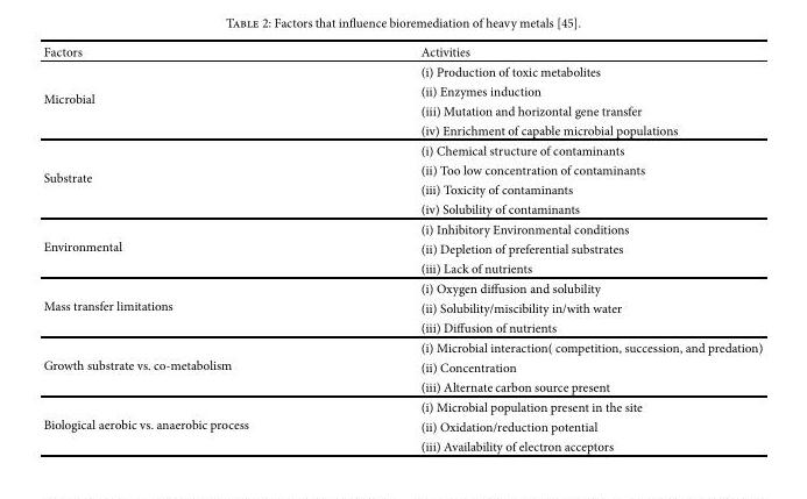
<table><thead><tr><td>Factors</td><td>Activities</td></tr></thead><tbody><tr><td rowspan="4">Microbial</td><td>(i) Production of toxic metabolites</td></tr><tr><td>(ii) Enzymes induction</td></tr><tr><td>(iii) Mutation and horizontal gene transfer</td></tr><tr><td>(iv) Enrichment of capable microbial populations</td></tr><tr><td rowspan="4">Substrate</td><td>(i) Chemical structure of contaminants</td></tr><tr><td>(ii) Too low concentration of contaminants</td></tr><tr><td>(iii) Toxicity of contaminants</td></tr><tr><td>(iv) Solubility of contaminants</td></tr><tr><td rowspan="3">Environmental</td><td>(i) Inhibitory Environmental conditions</td></tr><tr><td>(ii) Depletion of preferential substrates</td></tr><tr><td>(iii) Lack of nutrients</td></tr><tr><td rowspan="3">Mass transfer limitations</td><td>(i) Oxygen diffusion and solubility</td></tr><tr><td>(ii) Solubility/miscibility in/with water</td></tr><tr><td>(iii) Diffusion of nutrients</td></tr><tr><td rowspan="3">Growth substrate vs. co-metabolism</td><td>(i) Microbial interaction( competition, succession, and predation)</td></tr><tr><td>(ii) Concentration</td></tr><tr><td>(iii) Alternate carbon source present</td></tr><tr><td rowspan="3">Biological aerobic vs. anaerobic process</td><td>(i) Microbial population present in the site</td></tr><tr><td>(ii) Oxidation/reduction potential</td></tr><tr><td>(iii) Availability of electron acceptors</td></tr></tbody></table>